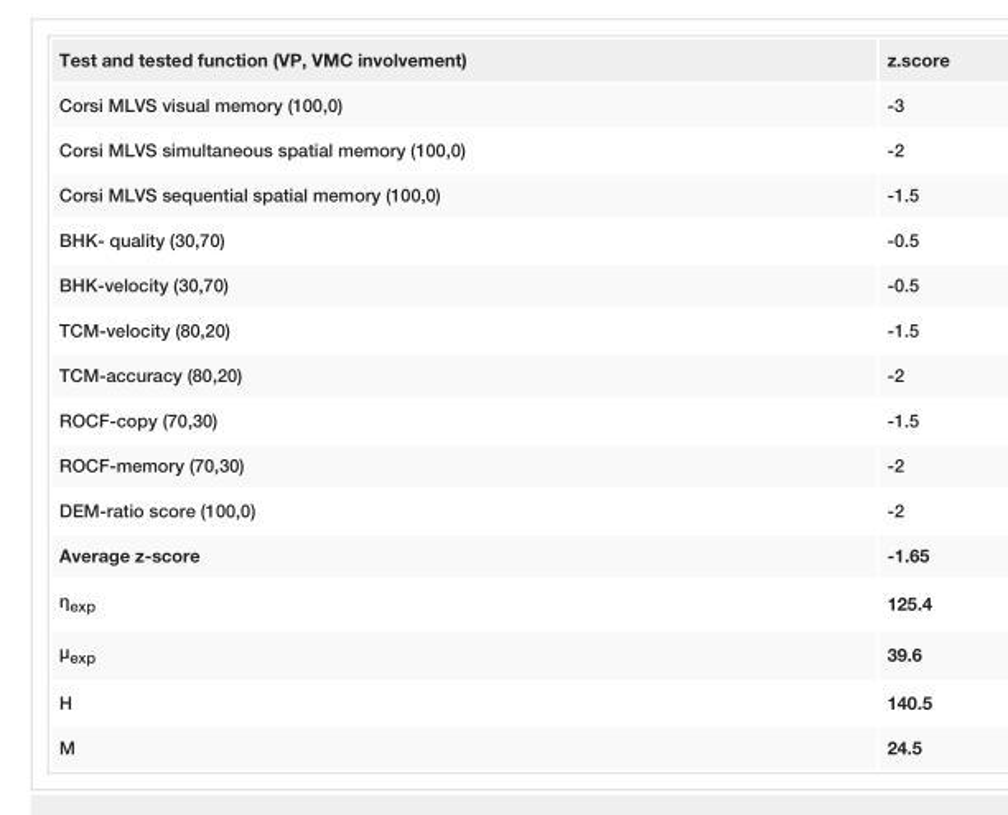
<table><tbody><tr><td>Test and tested function (VP, VMC involvement)</td><td>z.score</td></tr><tr><td>Corsi MLVS visual memory (100,0)</td><td>-3</td></tr><tr><td>Corsi MLVS simultaneous spatial memory (100,0)</td><td>-2</td></tr><tr><td>Corsi MLVS sequential spatial memory (100,0)</td><td>-1.5</td></tr><tr><td>BHK- quality (30,70)</td><td>-0.5</td></tr><tr><td>BHK-velocity (30,70)</td><td>-0.5</td></tr><tr><td>TCM-velocity (80,20)</td><td>-1.5</td></tr><tr><td>TCM-accuracy (80,20)</td><td>-2</td></tr><tr><td>ROCF-copy (70,30)</td><td>-1.5</td></tr><tr><td>ROCF-memory (70,30)</td><td>-2</td></tr><tr><td>DEM-ratio score (100,0)</td><td>-2</td></tr><tr><td>Average z-score</td><td>-1.65</td></tr><tr><td>η<sub>exp</sub></td><td>125.4</td></tr><tr><td>μ<sub>exp</sub></td><td>39.6</td></tr><tr><td>Η</td><td>140.5</td></tr><tr><td>Μ</td><td>24.5</td></tr></tbody></table>